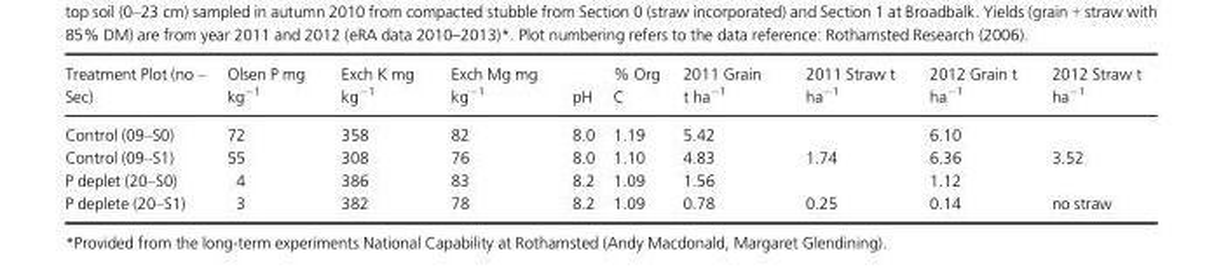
<table><thead><tr><td>Treatment Plot (no – Sec)</td><td>Olsen P mg kg<sup>−1</sup></td><td>Exch K mg kg<sup>−1</sup></td><td>Exch Mg mg kg<sup>−1</sup></td><td>pH</td><td>% Org C</td><td>2011 Grain t ha<sup>−1</sup></td><td>2011 Straw t ha<sup>−1</sup></td><td>2012 Grain t ha<sup>−1</sup></td><td>2012 Straw t ha<sup>−1</sup></td></tr></thead><tbody><tr><td>Control (09–S0)</td><td>72</td><td>358</td><td>82</td><td>8.0</td><td>1.19</td><td>5.42</td><td></td><td>6.10</td><td></td></tr><tr><td>Control (09–S1)</td><td>55</td><td>308</td><td>76</td><td>8.0</td><td>1.10</td><td>4.83</td><td>1.74</td><td>6.36</td><td>3.52</td></tr><tr><td>P deplet (20–S0)</td><td>4</td><td>386</td><td>83</td><td>8.2</td><td>1.09</td><td>1.56</td><td></td><td>1.12</td><td></td></tr><tr><td>P deplete (20–S1)</td><td>3</td><td>382</td><td>78</td><td>8.2</td><td>1.09</td><td>0.78</td><td>0.25</td><td>0.14</td><td>no straw</td></tr></tbody></table>